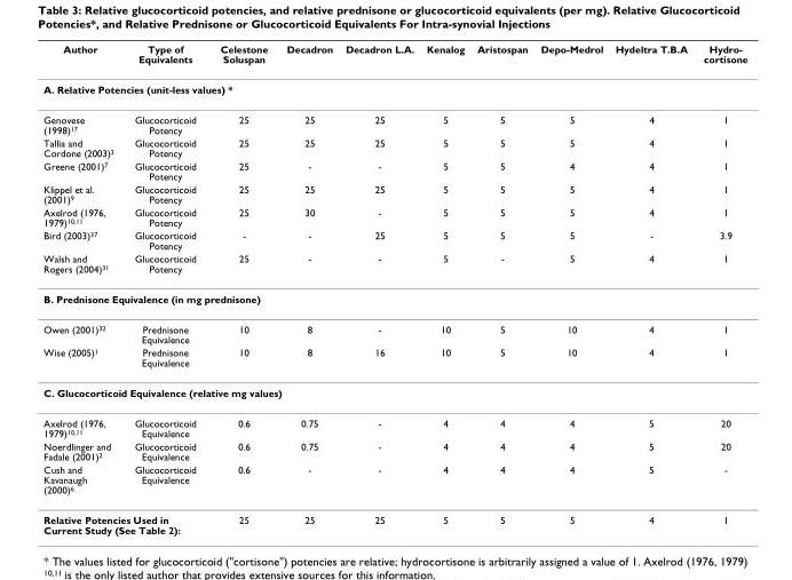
<table><thead><tr><td>Author</td><td>Type of Equivalents</td><td>Celestone Soluspan</td><td>Decadron</td><td>Decadron L.A.</td><td>Kenalog</td><td>Aristospan</td><td>Depo-Medrol</td><td>Hydeltra T.B.A</td><td>Hydro- cortisone</td></tr></thead><tbody><tr><td colspan="10">A. Relative Potencies (unit-less values) *</td></tr><tr><td>Genovese (1998)<sup>17</sup></td><td>Glucocorticoid Potency</td><td>25</td><td>25</td><td>25</td><td>5</td><td>5</td><td>5</td><td>4</td><td>1</td></tr><tr><td>Tallia and Cordone (2003)<sup>3</sup></td><td>Glucocorticoid Potency</td><td>25</td><td>25</td><td>25</td><td>5</td><td>5</td><td>5</td><td>4</td><td>1</td></tr><tr><td>Greene (2001)<sup>7</sup></td><td>Glucocorticoid Potency</td><td>25</td><td>-</td><td>-</td><td>5</td><td>5</td><td>4</td><td>4</td><td>1</td></tr><tr><td>Klippel et al. (2001)<sup>9</sup></td><td>Glucocorticoid Potency</td><td>25</td><td>25</td><td>25</td><td>5</td><td>5</td><td>5</td><td>4</td><td>1</td></tr><tr><td>Axelrod (1976, 1979)<sup>10,11</sup></td><td>Glucocorticoid Potency</td><td>25</td><td>30</td><td>-</td><td>5</td><td>5</td><td>5</td><td>4</td><td>1</td></tr><tr><td>Bird (2003)<sup>37</sup></td><td>Glucocorticoid Potency</td><td>-</td><td>-</td><td>25</td><td>5</td><td>5</td><td>5</td><td>-</td><td>3.9</td></tr><tr><td>Walsh and Rogers (2004)<sup>31</sup></td><td>Glucocorticoid Potency</td><td>25</td><td>-</td><td>-</td><td>5</td><td>-</td><td>5</td><td>4</td><td>1</td></tr><tr><td colspan="10">B. Prednisone Equivalence (in mg prednisone)</td></tr><tr><td>Owen (2001)<sup>32</sup></td><td>Prednisone Equivalence</td><td>10</td><td>8</td><td>-</td><td>10</td><td>5</td><td>10</td><td>4</td><td>1</td></tr><tr><td>Wise (2005)<sup>1</sup></td><td>Prednisone Equivalence</td><td>10</td><td>8</td><td>16</td><td>10</td><td>5</td><td>10</td><td>4</td><td>1</td></tr><tr><td colspan="10">C. Glucocorticoid Equivalence (relative mg values)</td></tr><tr><td>Axelrod (1976, 1979)<sup>10,11</sup></td><td>Glucocorticoid Equivalence</td><td>0.6</td><td>0.75</td><td>-</td><td>4</td><td>4</td><td>4</td><td>5</td><td>20</td></tr><tr><td>Noerdlinger and Fadale (2001)<sup>2</sup></td><td>Glucocorticoid Equivalence</td><td>0.6</td><td>0.75</td><td>-</td><td>4</td><td>4</td><td>4</td><td>5</td><td>20</td></tr><tr><td>Cush and Kavanaugh (2000)<sup>6</sup></td><td>Glucocorticoid Equivalence</td><td>0.6</td><td>-</td><td>-</td><td>4</td><td>4</td><td>4</td><td>5</td><td>-</td></tr><tr><td colspan="2">Relative Potencies Used in Current Study (See Table 2):</td><td>25</td><td>25</td><td>25</td><td>5</td><td>5</td><td>5</td><td>4</td><td>1</td></tr></tbody></table>